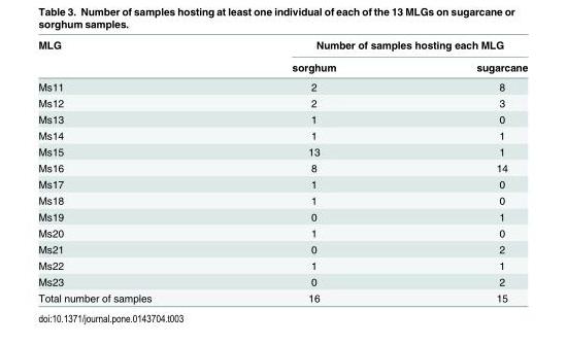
<table><thead><tr><td rowspan="2">MLG</td><td colspan="2">Number of samples hosting each MLG</td></tr><tr><td>sorghum</td><td>sugarcane</td></tr></thead><tbody><tr><td>Ms11</td><td>2</td><td>8</td></tr><tr><td>Ms12</td><td>2</td><td>3</td></tr><tr><td>Ms13</td><td>1</td><td>0</td></tr><tr><td>Ms14</td><td>1</td><td>1</td></tr><tr><td>Ms15</td><td>13</td><td>1</td></tr><tr><td>Ms16</td><td>8</td><td>14</td></tr><tr><td>Ms17</td><td>1</td><td>0</td></tr><tr><td>Ms18</td><td>1</td><td>0</td></tr><tr><td>Ms19</td><td>0</td><td>1</td></tr><tr><td>Ms20</td><td>1</td><td>0</td></tr><tr><td>Ms21</td><td>0</td><td>2</td></tr><tr><td>Ms22</td><td>1</td><td>1</td></tr><tr><td>Ms23</td><td>0</td><td>2</td></tr><tr><td>Total number of samples</td><td>16</td><td>15</td></tr></tbody></table>